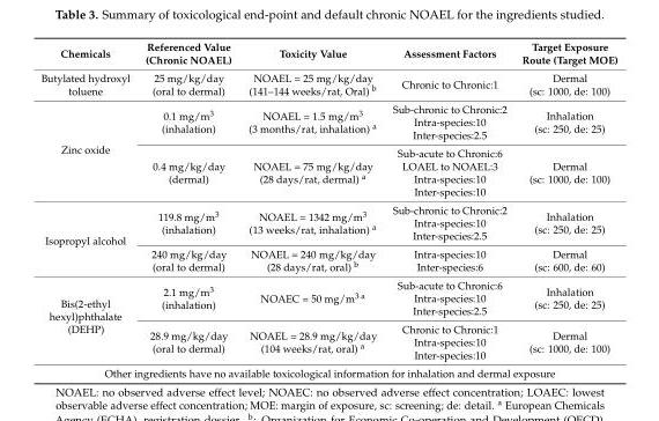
<table><thead><tr><td>Chemicals</td><td>Referenced Value (Chronic NOAEL)</td><td>Toxicity Value</td><td>Assessment Factors</td><td>Target Exposure Route (Target MOE)</td></tr></thead><tbody><tr><td>Butylated hydroxyl toluene</td><td>25 mg/kg/day (oral to dermal)</td><td>NOAEL = 25 mg/kg/day (141–144 weeks/rat, Oral) <sup>b</sup></td><td>Chronic to Chronic:1</td><td>Dermal (sc: 1000, de: 100)</td></tr><tr><td rowspan="2">Zinc oxide</td><td>0.1 mg/m<sup>3</sup> (inhalation)</td><td>NOAEL = 1.5 mg/m<sup>3</sup> (3 months/rat, inhalation) <sup>a</sup></td><td>Sub-chronic to Chronic:2 Intra-species:10 Inter-species:2.5</td><td>Inhalation (sc: 250, de: 25)</td></tr><tr><td>0.4 mg/kg/day (dermal)</td><td>NOAEL = 75 mg/kg/day (28 days/rat, dermal) <sup>a</sup></td><td>Sub-acute to Chronic:6 LOAEL to NOAEL:3 Intra-species:10 Inter-species:10</td><td>Dermal (sc: 1000, de: 100)</td></tr><tr><td rowspan="2">Isopropyl alcohol</td><td>119.8 mg/m<sup>3</sup> (inhalation)</td><td>NOAEL = 1342 mg/m<sup>3</sup> (13 weeks/rat, inhalation) <sup>a</sup></td><td>Sub-chronic to Chronic:2 Intra-species:10 Inter-species:2.5</td><td>Inhalation (sc: 250, de: 25)</td></tr><tr><td>240 mg/kg/day (oral to dermal)</td><td>NOAEL = 240 mg/kg/day (28 days/rat, oral) <sup>b</sup></td><td>Intra-species:10 Inter-species:6</td><td>Dermal (sc: 600, de: 60)</td></tr><tr><td rowspan="2">Bis(2-ethyl hexyl)phthalate (DEHP)</td><td>2.1 mg/m<sup>3</sup> (inhalation)</td><td>NOAEC = 50 mg/m<sup>3 a</sup></td><td>Sub-acute to Chronic:6 Intra-species:10 Inter-species:2.5</td><td>Inhalation (sc: 250, de: 25)</td></tr><tr><td>28.9 mg/kg/day (oral to dermal)</td><td>NOAEL = 28.9 mg/kg/day (104 weeks/rat, oral) <sup>a</sup></td><td>Chronic to Chronic:1 Intra-species:10 Inter-species:10</td><td>Dermal (sc: 1000, de: 100)</td></tr><tr><td colspan="5">Other ingredients have no available toxicological information for inhalation and dermal exposure</td></tr></tbody></table>